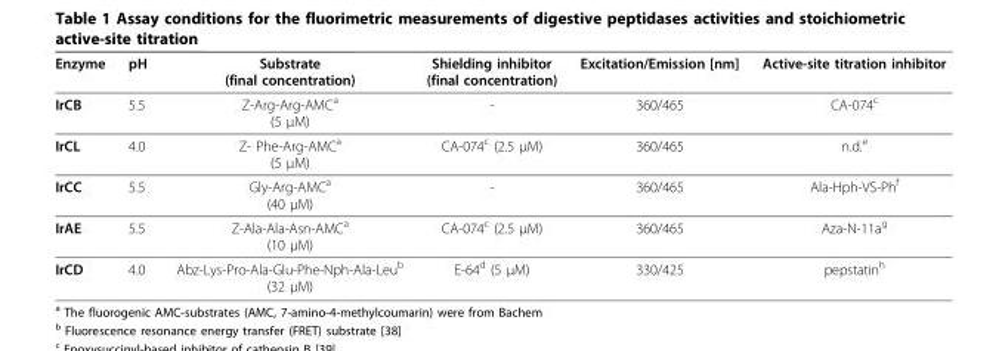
<table><thead><tr><td>Enzyme</td><td>pH</td><td>Substrate (final concentration)</td><td>Shielding inhibitor (final concentration)</td><td>Excitation/Emission [nm]</td><td>Active-site titration inhibitor</td></tr></thead><tbody><tr><td>IrCB</td><td>5.5</td><td>Z-Arg-Arg-AMC<sup>a</sup> (5 μM)</td><td>-</td><td>360/465</td><td>CA-074<sup>c</sup></td></tr><tr><td>IrCL</td><td>4.0</td><td>Z- Phe-Arg-AMC<sup>a</sup> (5 μM)</td><td>CA-074<sup>c</sup> (2.5 μM)</td><td>360/465</td><td>n.d.<sup>e</sup></td></tr><tr><td>IrCC</td><td>5.5</td><td>Gly-Arg-AMC<sup>a</sup> (40 μM)</td><td>-</td><td>360/465</td><td>Ala-Hph-VS-Ph<sup>f</sup></td></tr><tr><td>IrAE</td><td>5.5</td><td>Z-Ala-Ala-Asn-AMC<sup>a</sup> (10 μM)</td><td>CA-074<sup>c</sup> (2.5 μM)</td><td>360/465</td><td>Aza-N-11a<sup>g</sup></td></tr><tr><td>IrCD</td><td>4.0</td><td>Abz-Lys-Pro-Ala-Glu-Phe-Nph-Ala-Leu<sup>b</sup> (32 μM)</td><td>E-64<sup>d</sup> (5 μM)</td><td>330/425</td><td>pepstatin<sup>h</sup></td></tr></tbody></table>